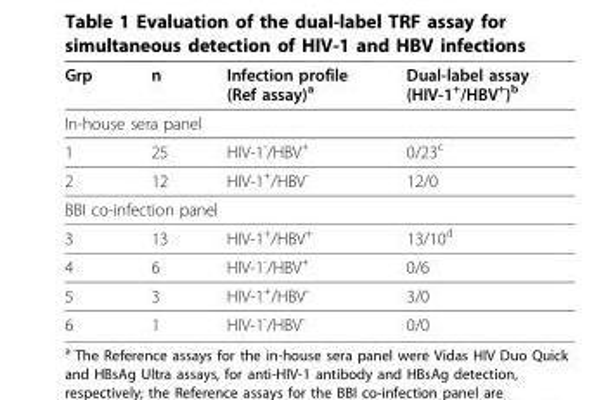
<table><thead><tr><td>Grp</td><td>n</td><td>Infection profile (Ref assay)<sup>a</sup></td><td>Dual-label assay (HIV-1<sup>+</sup>/HBV<sup>+</sup>)<sup>b</sup></td></tr></thead><tbody><tr><td colspan="4">In-house sera panel</td></tr><tr><td>1</td><td>25</td><td>HIV-1<sup>-</sup>/HBV<sup>+</sup></td><td>0/23<sup>c</sup></td></tr><tr><td>2</td><td>12</td><td>HIV-1<sup>+</sup>/HBV<sup>-</sup></td><td>12/0</td></tr><tr><td colspan="4">BBI co-infection panel</td></tr><tr><td>3</td><td>13</td><td>HIV-1<sup>+</sup>/HBV<sup>+</sup></td><td>13/10<sup>d</sup></td></tr><tr><td>4</td><td>6</td><td>HIV-1<sup>-</sup>/HBV<sup>+</sup></td><td>0/6</td></tr><tr><td>5</td><td>3</td><td>HIV-1<sup>+</sup>/HBV<sup>-</sup></td><td>3/0</td></tr><tr><td>6</td><td>1</td><td>HIV-1<sup>-</sup>/HBV<sup>-</sup></td><td>0/0</td></tr></tbody></table>